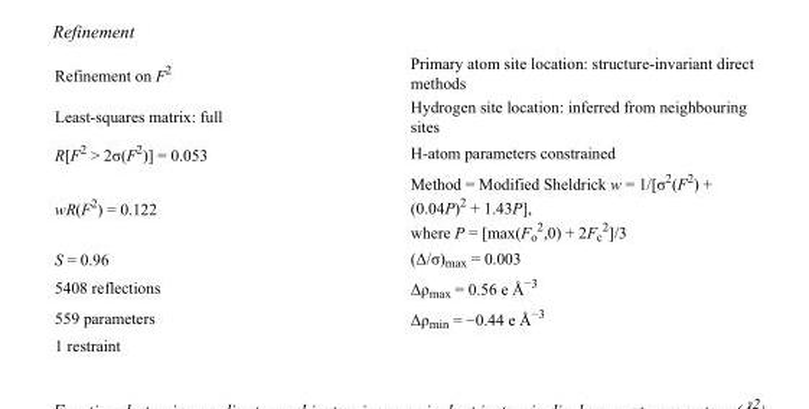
<table><tbody><tr><td>Refinement on F<sup>2</sup></td><td>Primary atom site location: structure-invariant direct methods</td></tr><tr><td>Least-squares matrix: full</td><td>Hydrogen site location: inferred from neighbouring sites</td></tr><tr><td>R[F<sup>2</sup> &gt; 2σ(F<sup>2</sup>)] = 0.053</td><td>H-atom parameters constrained</td></tr><tr><td>wR(F<sup>2</sup>) = 0.122</td><td>Method = Modified Sheldrick w = 1/[σ<sup>2</sup>(F<sup>2</sup>) + (0.04P)<sup>2</sup> + 1.43P], where P = [max(F<sub>o</sub> <sup>2</sup>,0) + 2F<sub>c</sub> <sup>2</sup>]/3</td></tr><tr><td>S = 0.96</td><td>(Δ/σ)<sub>max</sub> = 0.003</td></tr><tr><td>5408 reflections</td><td>Δρ<sub>max</sub> = 0.56 e Å<sup>−3</sup></td></tr><tr><td>559 parameters</td><td>Δρ<sub>min</sub> = −0.44 e Å<sup>−3</sup></td></tr><tr><td>1 restraint</td><td></td></tr></tbody></table>